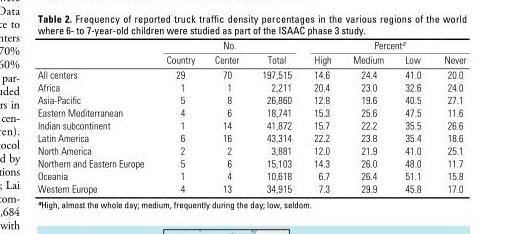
<table><thead><tr><td rowspan="2"></td><td colspan="3">No.</td><td colspan="4">Percent<sup>a</sup></td></tr><tr><td>Country</td><td>Center</td><td>Total</td><td>High</td><td>Medium</td><td>Low</td><td>Never</td></tr></thead><tbody><tr><td>All centers</td><td>29</td><td>70</td><td>197,515</td><td>14.6</td><td>24.4</td><td>41.0</td><td>20.0</td></tr><tr><td>Africa</td><td>1</td><td>1</td><td>2,211</td><td>20.4</td><td>23.0</td><td>32.6</td><td>24.0</td></tr><tr><td>Asia-Pacific</td><td>5</td><td>8</td><td>26,860</td><td>12.8</td><td>19.6</td><td>40.5</td><td>27.1</td></tr><tr><td>Eastern Mediterranean</td><td>4</td><td>6</td><td>18,741</td><td>15.3</td><td>25.6</td><td>47.5</td><td>11.6</td></tr><tr><td>Indian subcontinent</td><td>1</td><td>14</td><td>41,872</td><td>15.7</td><td>22.2</td><td>35.5</td><td>26.6</td></tr><tr><td>Latin America</td><td>6</td><td>16</td><td>43,314</td><td>22.2</td><td>23.8</td><td>35.4</td><td>18.6</td></tr><tr><td>North America</td><td>2</td><td>2</td><td>3,881</td><td>12.0</td><td>21.9</td><td>41.0</td><td>25.1</td></tr><tr><td>Northern and Eastern Europe</td><td>5</td><td>6</td><td>15,103</td><td>14.3</td><td>26.0</td><td>48.0</td><td>11.7</td></tr><tr><td>Oceania</td><td>1</td><td>4</td><td>10,618</td><td>6.7</td><td>26.4</td><td>51.1</td><td>15.8</td></tr><tr><td>Western Europe</td><td>4</td><td>13</td><td>34,915</td><td>7.3</td><td>29.9</td><td>45.8</td><td>17.0</td></tr></tbody></table>